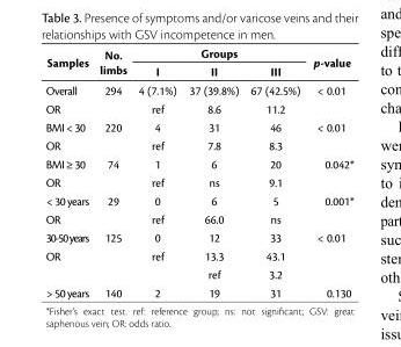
<table><thead><tr><td rowspan="2">Samples</td><td rowspan="2">No. limbs</td><td colspan="3">Groups</td><td rowspan="2">p-value</td></tr><tr><td>I</td><td>II</td><td>III</td></tr></thead><tbody><tr><td>Overall</td><td>294</td><td>4 (7.1%)</td><td>37 (39.8%)</td><td>67 (42.5%)</td><td>&lt; 0.01</td></tr><tr><td>OR</td><td></td><td>ref</td><td>8.6</td><td>11.2</td><td></td></tr><tr><td>BMI &lt; 30</td><td>220</td><td>4</td><td>31</td><td>46</td><td>&lt; 0.01</td></tr><tr><td>OR</td><td></td><td>ref</td><td>7.8</td><td>8.3</td><td></td></tr><tr><td>BMI ≥ 30</td><td>74</td><td>1</td><td>6</td><td>20</td><td>0.042*</td></tr><tr><td>OR</td><td></td><td>ref</td><td>ns</td><td>9.1</td><td></td></tr><tr><td>&lt; 30 years</td><td>29</td><td>0</td><td>6</td><td>5</td><td>0.001*</td></tr><tr><td>OR</td><td></td><td>ref</td><td>66.0</td><td>ns</td><td></td></tr><tr><td>30-50 years</td><td>125</td><td>0</td><td>12</td><td>33</td><td>&lt; 0.01</td></tr><tr><td rowspan="2">OR</td><td></td><td>ref</td><td>13.3</td><td>43.1</td><td></td></tr><tr><td></td><td></td><td>ref</td><td>3.2</td><td></td></tr><tr><td>&gt; 50 years</td><td>140</td><td>2</td><td>19</td><td>31</td><td>0.130</td></tr></tbody></table>